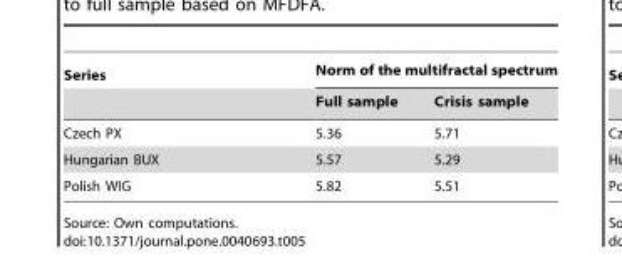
<table><thead><tr><td rowspan="2">Series</td><td colspan="2">Norm of the multifractal spectrum</td></tr><tr><td>Full sample</td><td>Crisis sample</td></tr></thead><tbody><tr><td>Czech PX</td><td>5.36</td><td>5.71</td></tr><tr><td>Hungarian BUX</td><td>5.57</td><td>5.29</td></tr><tr><td>Polish WIG</td><td>5.82</td><td>5.51</td></tr></tbody></table>